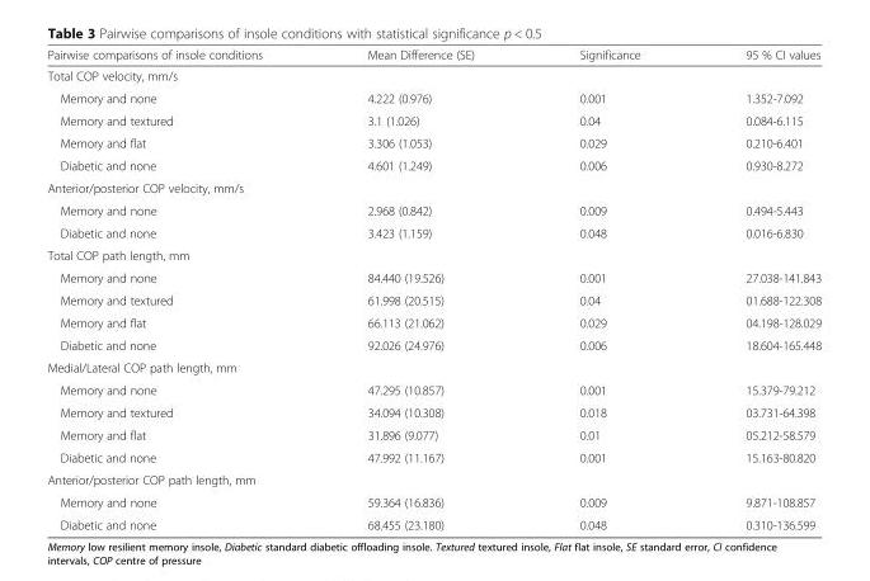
<table><thead><tr><td>Pairwise comparisons of insole conditions</td><td>Mean Difference (SE)</td><td>Significance</td><td>95 % CI values</td></tr></thead><tbody><tr><td colspan="4">Total COP velocity, mm/s</td></tr><tr><td>Memory and none</td><td>4.222 (0.976)</td><td>0.001</td><td>1.352-7.092</td></tr><tr><td>Memory and textured</td><td>3.1 (1.026)</td><td>0.04</td><td>0.084-6.115</td></tr><tr><td>Memory and flat</td><td>3.306 (1.053)</td><td>0.029</td><td>0.210-6.401</td></tr><tr><td>Diabetic and none</td><td>4.601 (1.249)</td><td>0.006</td><td>0.930-8.272</td></tr><tr><td colspan="4">Anterior/posterior COP velocity, mm/s</td></tr><tr><td>Memory and none</td><td>2.968 (0.842)</td><td>0.009</td><td>0.494-5.443</td></tr><tr><td>Diabetic and none</td><td>3.423 (1.159)</td><td>0.048</td><td>0.016-6.830</td></tr><tr><td colspan="4">Total COP path length, mm</td></tr><tr><td>Memory and none</td><td>84.440 (19.526)</td><td>0.001</td><td>27.038-141.843</td></tr><tr><td>Memory and textured</td><td>61.998 (20.515)</td><td>0.04</td><td>01.688-122.308</td></tr><tr><td>Memory and flat</td><td>66.113 (21.062)</td><td>0.029</td><td>04.198-128.029</td></tr><tr><td>Diabetic and none</td><td>92.026 (24.976)</td><td>0.006</td><td>18.604-165.448</td></tr><tr><td colspan="4">Medial/Lateral COP path length, mm</td></tr><tr><td>Memory and none</td><td>47.295 (10.857)</td><td>0.001</td><td>15.379-79.212</td></tr><tr><td>Memory and textured</td><td>34.094 (10.308)</td><td>0.018</td><td>03.731-64.398</td></tr><tr><td>Memory and flat</td><td>31.896 (9.077)</td><td>0.01</td><td>05.212-58.579</td></tr><tr><td>Diabetic and none</td><td>47.992 (11.167)</td><td>0.001</td><td>15.163-80.820</td></tr><tr><td colspan="4">Anterior/posterior COP path length, mm</td></tr><tr><td>Memory and none</td><td>59.364 (16.836)</td><td>0.009</td><td>9.871-108.857</td></tr><tr><td>Diabetic and none</td><td>68.455 (23.180)</td><td>0.048</td><td>0.310-136.599</td></tr></tbody></table>